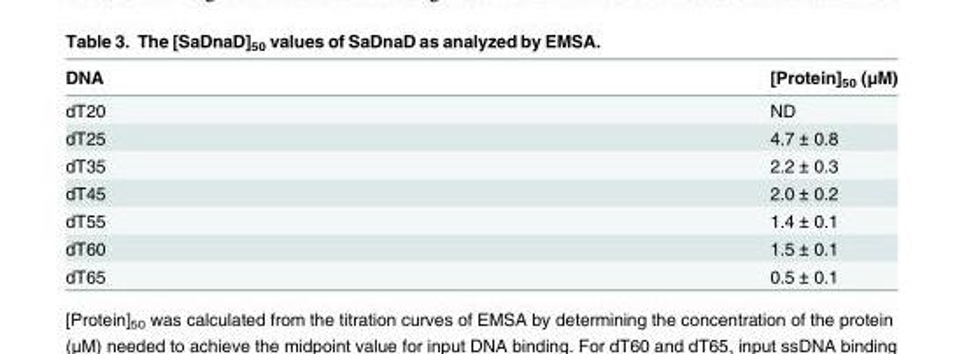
<table><thead><tr><td>DNA</td><td>[Protein]<sub>50</sub> (μM)</td></tr></thead><tbody><tr><td>dT20</td><td>ND</td></tr><tr><td>dT25</td><td>4.7 ± 0.8</td></tr><tr><td>dT35</td><td>2.2 ± 0.3</td></tr><tr><td>dT45</td><td>2.0 ± 0.2</td></tr><tr><td>dT55</td><td>1.4 ± 0.1</td></tr><tr><td>dT60</td><td>1.5 ± 0.1</td></tr><tr><td>dT65</td><td>0.5 ± 0.1</td></tr></tbody></table>